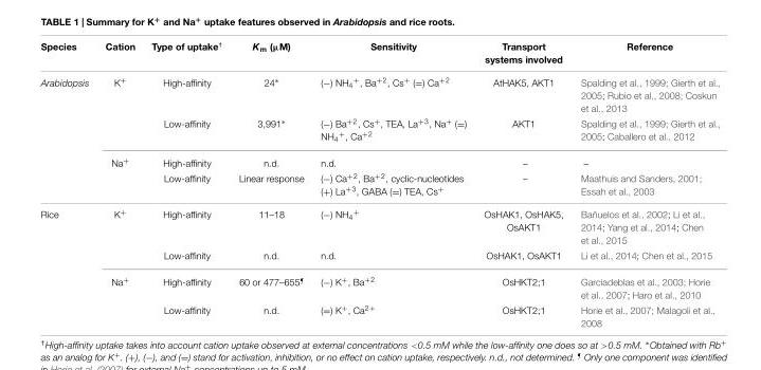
<table><thead><tr><td>Species</td><td>Cation</td><td>Type of uptake<sup>†</sup></td><td>K<sub>m</sub> (µM)</td><td>Sensitivity</td><td>Transport systems involved</td><td>Reference</td></tr></thead><tbody><tr><td rowspan="4">Arabidopsis</td><td>K<sup>+</sup></td><td>High-affinity</td><td>24∗</td><td>(−) NH<sub>4</sub><sup>+</sup>, Ba<sup>+2</sup>, Cs<sup>+</sup> (=) Ca<sup>+2</sup></td><td>AtHAK5, AKT1</td><td>Spalding et al., 1999; Gierth et al., 2005; Rubio et al., 2008; Coskun et al., 2013</td></tr><tr><td></td><td>Low-affinity</td><td>3,991∗</td><td>(−) Ba<sup>+2</sup>, Cs<sup>+</sup>, TEA, La<sup>+3</sup>, Na<sup>+</sup> (=) NH<sub>4</sub><sup>+</sup>, Ca<sup>+2</sup></td><td>AKT1</td><td>Spalding et al., 1999; Gierth et al., 2005; Caballero et al., 2012</td></tr><tr><td>Na<sup>+</sup></td><td>High-affinity</td><td>n.d.</td><td>n.d.</td><td>–</td><td>–</td></tr><tr><td></td><td>Low-affinity</td><td>Linear response</td><td>(−) Ca<sup>+2</sup>, Ba<sup>+2</sup>, cyclic-nucleotides (+) La<sup>+3</sup>, GABA (=) TEA, Cs<sup>+</sup></td><td>–</td><td>Maathuis and Sanders, 2001; Essah et al., 2003</td></tr><tr><td rowspan="4">Rice</td><td>K<sup>+</sup></td><td>High-affinity</td><td>11–18</td><td>(−) NH<sub>4</sub><sup>+</sup></td><td>OsHAK1, OsHAK5, OsAKT1</td><td>Bañuelos et al., 2002; Li et al., 2014; Yang et al., 2014; Chen et al., 2015</td></tr><tr><td></td><td>Low-affinity</td><td>n.d.</td><td>n.d.</td><td>OsHAK1, OsAKT1</td><td>Li et al., 2014; Chen et al., 2015</td></tr><tr><td>Na<sup>+</sup></td><td>High-affinity</td><td>60 or 477–655<sup>¶</sup></td><td>(−) K<sup>+</sup>, Ba<sup>+2</sup></td><td>OsHKT2;1</td><td>Garciadeblas et al., 2003; Horie et al., 2007; Haro et al., 2010</td></tr><tr><td></td><td>Low-affinity</td><td>n.d.</td><td>(=) K<sup>+</sup>, Ca<sup>2+</sup></td><td>OsHKT2;1</td><td>Horie et al., 2007; Malagoli et al., 2008</td></tr></tbody></table>